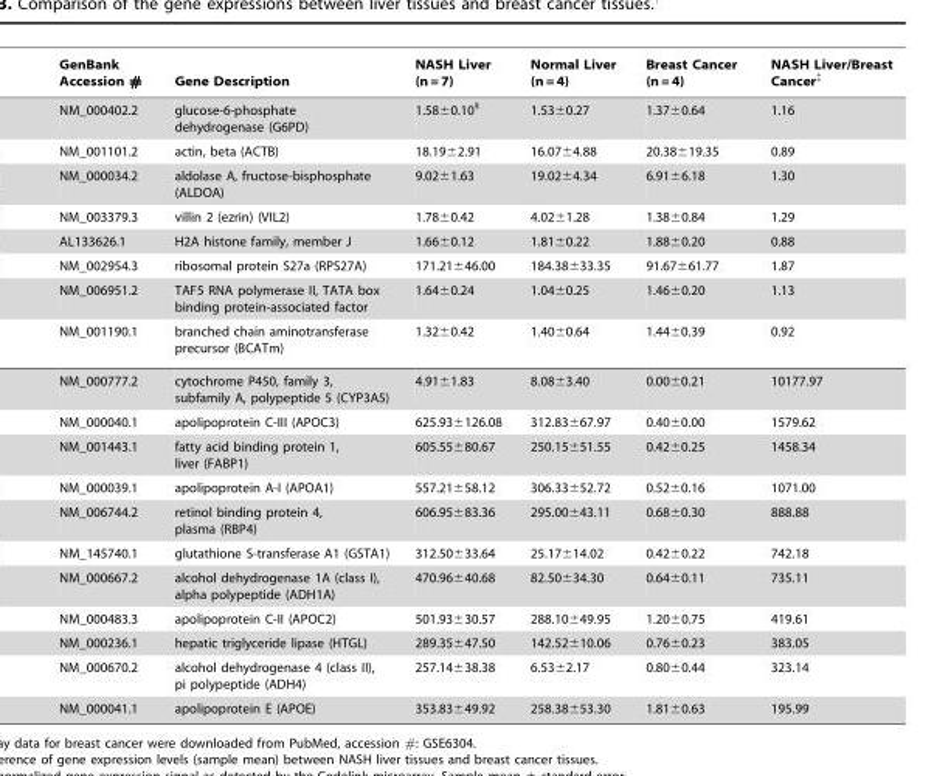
<table><thead><tr><td>GenBank Accession #</td><td>Gene Description</td><td>NASH Liver (n = 7)</td><td>Normal Liver (n = 4)</td><td>Breast Cancer (n = 4)</td><td>NASH Liver/Breast Cancer‡</td></tr></thead><tbody><tr><td>NM_000402.2</td><td>glucose-6-phosphate dehydrogenase (G6PD)</td><td>1.58±0.10§</td><td>1.53±0.27</td><td>1.37±0.64</td><td>1.16</td></tr><tr><td>NM_001101.2</td><td>actin, beta (ACTB)</td><td>18.19±2.91</td><td>16.07±4.88</td><td>20.38±19.35</td><td>0.89</td></tr><tr><td>NM_000034.2</td><td>aldolase A, fructose-bisphosphate (ALDOA)</td><td>9.02±1.63</td><td>19.02±4.34</td><td>6.91±6.18</td><td>1.30</td></tr><tr><td>NM_003379.3</td><td>villin 2 (ezrin) (VIL2)</td><td>1.78±0.42</td><td>4.02±1.28</td><td>1.38±0.84</td><td>1.29</td></tr><tr><td>AL133626.1</td><td>H2A histone family, member J</td><td>1.66±0.12</td><td>1.81±0.22</td><td>1.88±0.20</td><td>0.88</td></tr><tr><td>NM_002954.3</td><td>ribosomal protein S27a (RPS27A)</td><td>171.21±46.00</td><td>184.38±33.35</td><td>91.67±61.77</td><td>1.87</td></tr><tr><td>NM_006951.2</td><td>TAF5 RNA polymerase II, TATA box binding protein-associated factor</td><td>1.64±0.24</td><td>1.04±0.25</td><td>1.46±0.20</td><td>1.13</td></tr><tr><td>NM_001190.1</td><td>branched chain aminotransferase precursor (BCATm)</td><td>1.32±0.42</td><td>1.40±0.64</td><td>1.44±0.39</td><td>0.92</td></tr><tr><td>NM_000777.2</td><td>cytochrome P450, family 3, subfamily A, polypeptide 5 (CYP3A5)</td><td>4.91±1.83</td><td>8.08±3.40</td><td>0.00±0.21</td><td>10177.97</td></tr><tr><td>NM_000040.1</td><td>apolipoprotein C-III (APOC3)</td><td>625.93±126.08</td><td>312.83±67.97</td><td>0.40±0.00</td><td>1579.62</td></tr><tr><td>NM_001443.1</td><td>fatty acid binding protein 1, liver (FABP1)</td><td>605.55±80.67</td><td>250.15±51.55</td><td>0.42±0.25</td><td>1458.34</td></tr><tr><td>NM_000039.1</td><td>apolipoprotein A-I (APOA1)</td><td>557.21±58.12</td><td>306.33±52.72</td><td>0.52±0.16</td><td>1071.00</td></tr><tr><td>NM_006744.2</td><td>retinol binding protein 4, plasma (RBP4)</td><td>606.95±83.36</td><td>295.00±43.11</td><td>0.68±0.30</td><td>888.88</td></tr><tr><td>NM_145740.1</td><td>glutathione S-transferase A1 (GSTA1)</td><td>312.50±33.64</td><td>25.17±14.02</td><td>0.42±0.22</td><td>742.18</td></tr><tr><td>NM_000667.2</td><td>alcohol dehydrogenase 1A (class I), alpha polypeptide (ADH1A)</td><td>470.96±40.68</td><td>82.50±34.30</td><td>0.64±0.11</td><td>735.11</td></tr><tr><td>NM_000483.3</td><td>apolipoprotein C-II (APOC2)</td><td>501.93±30.57</td><td>288.10±49.95</td><td>1.20±0.75</td><td>419.61</td></tr><tr><td>NM_000236.1</td><td>hepatic triglyceride lipase (HTGL)</td><td>289.35±47.50</td><td>142.52±10.06</td><td>0.76±0.23</td><td>383.05</td></tr><tr><td>NM_000670.2</td><td>alcohol dehydrogenase 4 (class II), pi polypeptide (ADH4)</td><td>257.14±38.38</td><td>6.53±2.17</td><td>0.80±0.44</td><td>323.14</td></tr><tr><td>NM_000041.1</td><td>apolipoprotein E (APOE)</td><td>353.83±49.92</td><td>258.38±53.30</td><td>1.81±0.63</td><td>195.99</td></tr></tbody></table>